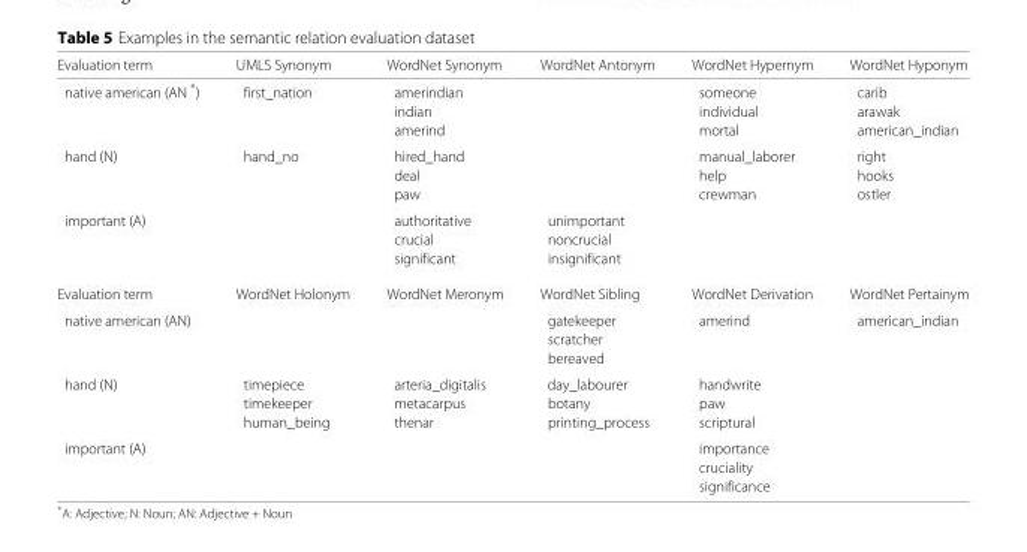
<table><thead><tr><td>Evaluation term</td><td>UMLS Synonym</td><td>WordNet Synonym</td><td>WordNet Antonym</td><td>WordNet Hypernym</td><td>WordNet Hyponym</td></tr></thead><tbody><tr><td rowspan="3">native american (AN *)</td><td>first_nation</td><td>amerindian</td><td></td><td>someone</td><td>carib</td></tr><tr><td></td><td>indian</td><td></td><td>individual</td><td>arawak</td></tr><tr><td></td><td>amerind</td><td></td><td>mortal</td><td>american_indian</td></tr><tr><td rowspan="3">hand (N)</td><td>hand_no</td><td>hired_hand</td><td></td><td>manual_laborer</td><td>right</td></tr><tr><td></td><td>deal</td><td></td><td>help</td><td>hooks</td></tr><tr><td></td><td>paw</td><td></td><td>crewman</td><td>ostler</td></tr><tr><td rowspan="3">important (A)</td><td></td><td>authoritative</td><td>unimportant</td><td></td><td></td></tr><tr><td></td><td>crucial</td><td>noncrucial</td><td></td><td></td></tr><tr><td></td><td>significant</td><td>insignificant</td><td></td><td></td></tr><tr><td>Evaluation term</td><td>WordNet Holonym</td><td>WordNet Meronym</td><td>WordNet Sibling</td><td>WordNet Derivation</td><td>WordNet Pertainym</td></tr><tr><td rowspan="3">native american (AN)</td><td></td><td></td><td>gatekeeper</td><td>amerind</td><td>american_indian</td></tr><tr><td></td><td></td><td>scratcher</td><td></td><td></td></tr><tr><td></td><td></td><td>bereaved</td><td></td><td></td></tr><tr><td rowspan="3">hand (N)</td><td>timepiece</td><td>arteria_digitalis</td><td>day_labourer</td><td>handwrite</td><td></td></tr><tr><td>timekeeper</td><td>metacarpus</td><td>botany</td><td>paw</td><td></td></tr><tr><td>human_being</td><td>thenar</td><td>printing_process</td><td>scriptural</td><td></td></tr><tr><td rowspan="3">important (A)</td><td></td><td></td><td></td><td>importance</td><td></td></tr><tr><td></td><td></td><td></td><td>cruciality</td><td></td></tr><tr><td></td><td></td><td></td><td>significance</td><td></td></tr></tbody></table>